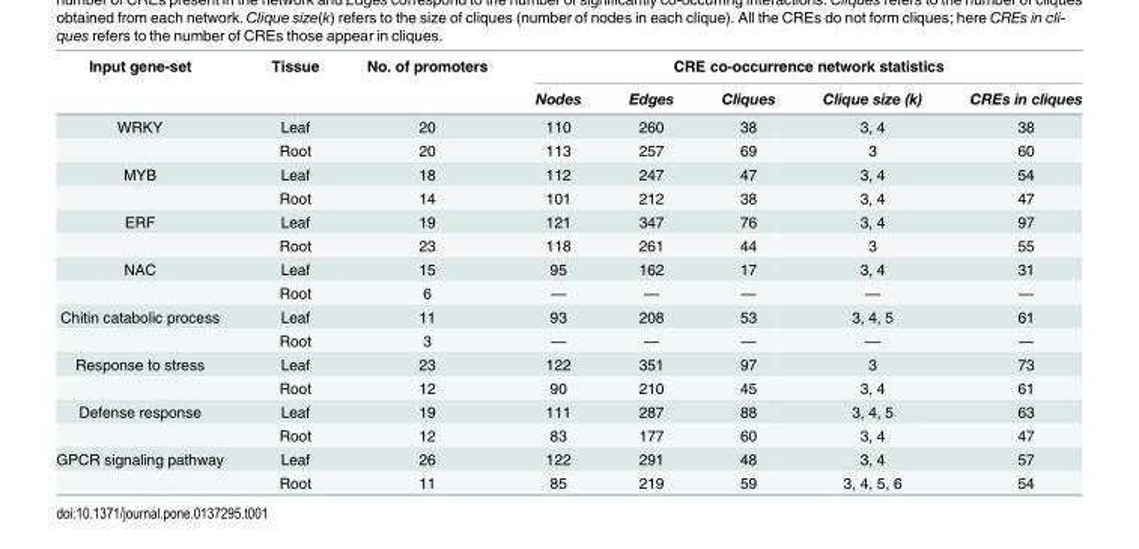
<table><thead><tr><td rowspan="2">Input gene-set</td><td rowspan="2">Tissue</td><td rowspan="2">No. of promoters</td><td colspan="5">CRE co-occurrence network statistics</td></tr><tr><td>Nodes</td><td>Edges</td><td>Cliques</td><td>Clique size (k)</td><td>CREs in cliques</td></tr></thead><tbody><tr><td rowspan="2">WRKY</td><td>Leaf</td><td>20</td><td>110</td><td>260</td><td>38</td><td>3, 4</td><td>38</td></tr><tr><td>Root</td><td>20</td><td>113</td><td>257</td><td>69</td><td>3</td><td>60</td></tr><tr><td rowspan="2">MYB</td><td>Leaf</td><td>18</td><td>112</td><td>247</td><td>47</td><td>3, 4</td><td>54</td></tr><tr><td>Root</td><td>14</td><td>101</td><td>212</td><td>38</td><td>3, 4</td><td>47</td></tr><tr><td rowspan="2">ERF</td><td>Leaf</td><td>19</td><td>121</td><td>347</td><td>76</td><td>3, 4</td><td>97</td></tr><tr><td>Root</td><td>23</td><td>118</td><td>261</td><td>44</td><td>3</td><td>55</td></tr><tr><td rowspan="2">NAC</td><td>Leaf</td><td>15</td><td>95</td><td>162</td><td>17</td><td>3, 4</td><td>31</td></tr><tr><td>Root</td><td>6</td><td>—</td><td>—</td><td>—</td><td>—</td><td>—</td></tr><tr><td rowspan="2">Chitin catabolic process</td><td>Leaf</td><td>11</td><td>93</td><td>208</td><td>53</td><td>3, 4, 5</td><td>61</td></tr><tr><td>Root</td><td>3</td><td>—</td><td>—</td><td>—</td><td>—</td><td>—</td></tr><tr><td rowspan="2">Response to stress</td><td>Leaf</td><td>23</td><td>122</td><td>351</td><td>97</td><td>3</td><td>73</td></tr><tr><td>Root</td><td>12</td><td>90</td><td>210</td><td>45</td><td>3, 4</td><td>61</td></tr><tr><td rowspan="2">Defense response</td><td>Leaf</td><td>19</td><td>111</td><td>287</td><td>88</td><td>3, 4, 5</td><td>63</td></tr><tr><td>Root</td><td>12</td><td>83</td><td>177</td><td>60</td><td>3, 4</td><td>47</td></tr><tr><td rowspan="2">GPCR signaling pathway</td><td>Leaf</td><td>26</td><td>122</td><td>291</td><td>48</td><td>3, 4</td><td>57</td></tr><tr><td>Root</td><td>11</td><td>85</td><td>219</td><td>59</td><td>3, 4, 5, 6</td><td>54</td></tr></tbody></table>